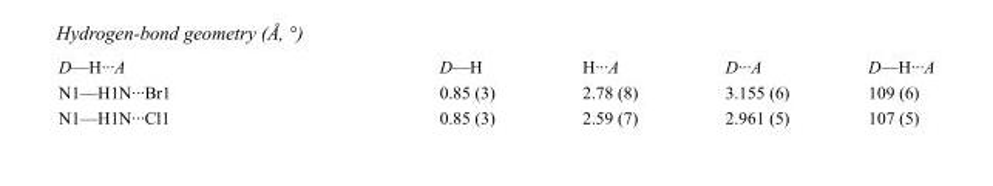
<table><tbody><tr><td>D—H···A</td><td>D—H</td><td>H···A</td><td>D···A</td><td>D—H···A</td></tr><tr><td>N1—H1N···Br1</td><td>0.85 (3)</td><td>2.78 (8)</td><td>3.155 (6)</td><td>109 (6)</td></tr><tr><td>N1—H1N···Cl1</td><td>0.85 (3)</td><td>2.59 (7)</td><td>2.961 (5)</td><td>107 (5)</td></tr></tbody></table>